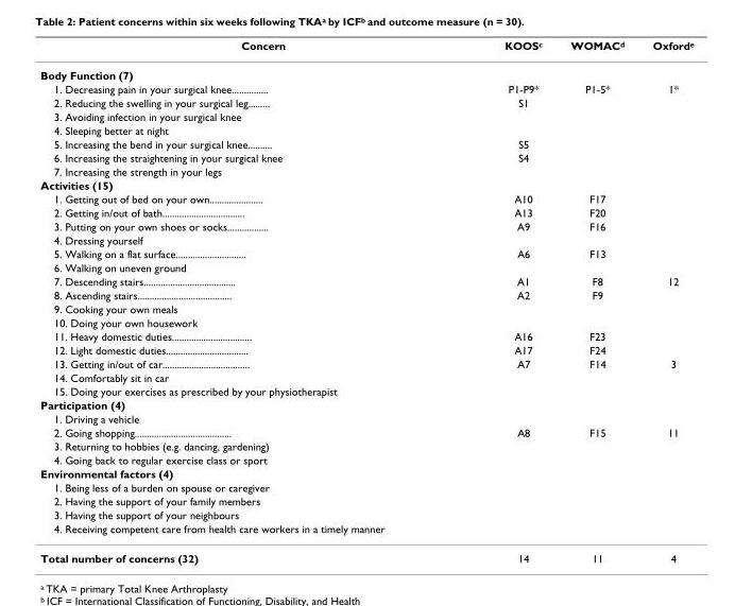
<table><thead><tr><td>Concern</td><td>KOOS<sup>c</sup></td><td>WOMAC<sup>d</sup></td><td>Oxford<sup>e</sup></td></tr></thead><tbody><tr><td colspan="4">Body Function (7)</td></tr><tr><td>1. Decreasing pain in your surgical knee...............</td><td>P1-P9*</td><td>P1-5*</td><td>1*</td></tr><tr><td>2. Reducing the swelling in your surgical leg.........</td><td>S1</td><td></td><td></td></tr><tr><td colspan="4">3. Avoiding infection in your surgical knee</td></tr><tr><td colspan="4">4. Sleeping better at night</td></tr><tr><td>5. Increasing the bend in your surgical knee..........</td><td>S5</td><td></td><td></td></tr><tr><td>6. Increasing the straightening in your surgical knee</td><td>S4</td><td></td><td></td></tr><tr><td colspan="4">7. Increasing the strength in your legs</td></tr><tr><td colspan="4">Activities (15)</td></tr><tr><td>1. Getting out of bed on your own......................</td><td>A10</td><td>F17</td><td></td></tr><tr><td>2. Getting in/out of bath..................................</td><td>A13</td><td>F20</td><td></td></tr><tr><td>3. Putting on your own shoes or socks.................</td><td>A9</td><td>F16</td><td></td></tr><tr><td colspan="4">4. Dressing yourself</td></tr><tr><td>5. Walking on a flat surface.............................</td><td>A6</td><td>F13</td><td></td></tr><tr><td colspan="4">6. Walking on uneven ground</td></tr><tr><td>7. Descending stairs......................................</td><td>A1</td><td>F8</td><td>12</td></tr><tr><td>8. Ascending stairs.......................................</td><td>A2</td><td>F9</td><td></td></tr><tr><td colspan="4">9. Cooking your own meals</td></tr><tr><td colspan="4">10. Doing your own housework</td></tr><tr><td>11. Heavy domestic duties.................................</td><td>A16</td><td>F23</td><td></td></tr><tr><td>12. Light domestic duties..................................</td><td>A17</td><td>F24</td><td></td></tr><tr><td>13. Getting in/out of car....................................</td><td>A7</td><td>F14</td><td>3</td></tr><tr><td colspan="4">14. Comfortably sit in car</td></tr><tr><td colspan="4">15. Doing your exercises as prescribed by your physiotherapist</td></tr><tr><td colspan="4">Participation (4)</td></tr><tr><td colspan="4">1. Driving a vehicle</td></tr><tr><td>2. Going shopping........................................</td><td>A8</td><td>F15</td><td>11</td></tr><tr><td colspan="4">3. Returning to hobbies (e.g. dancing, gardening)</td></tr><tr><td colspan="4">4. Going back to regular exercise class or sport</td></tr><tr><td colspan="4">Environmental factors (4)</td></tr><tr><td colspan="4">1. Being less of a burden on spouse or caregiver</td></tr><tr><td colspan="4">2. Having the support of your family members</td></tr><tr><td colspan="4">3. Having the support of your neighbours</td></tr><tr><td colspan="4">4. Receiving competent care from health care workers in a timely manner</td></tr><tr><td>Total number of concerns (32)</td><td>14</td><td>11</td><td>4</td></tr></tbody></table>